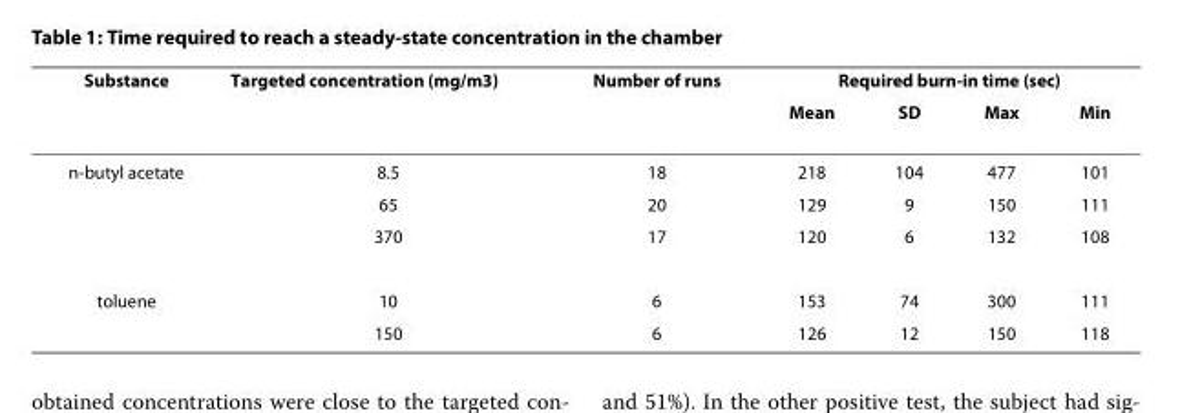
<table><thead><tr><td rowspan="2">Substance</td><td rowspan="2">Targeted concentration (mg/m<sup>3</sup>)</td><td rowspan="2">Number of runs</td><td colspan="4">Required burn-in time (sec)</td></tr><tr><td>Mean</td><td>SD</td><td>Max</td><td>Min</td></tr></thead><tbody><tr><td rowspan="3">n-butyl acetate</td><td>8.5</td><td>18</td><td>218</td><td>104</td><td>477</td><td>101</td></tr><tr><td>65</td><td>20</td><td>129</td><td>9</td><td>150</td><td>111</td></tr><tr><td>370</td><td>17</td><td>120</td><td>6</td><td>132</td><td>108</td></tr><tr><td rowspan="2">toluene</td><td>10</td><td>6</td><td>153</td><td>74</td><td>300</td><td>111</td></tr><tr><td>150</td><td>6</td><td>126</td><td>12</td><td>150</td><td>118</td></tr></tbody></table>